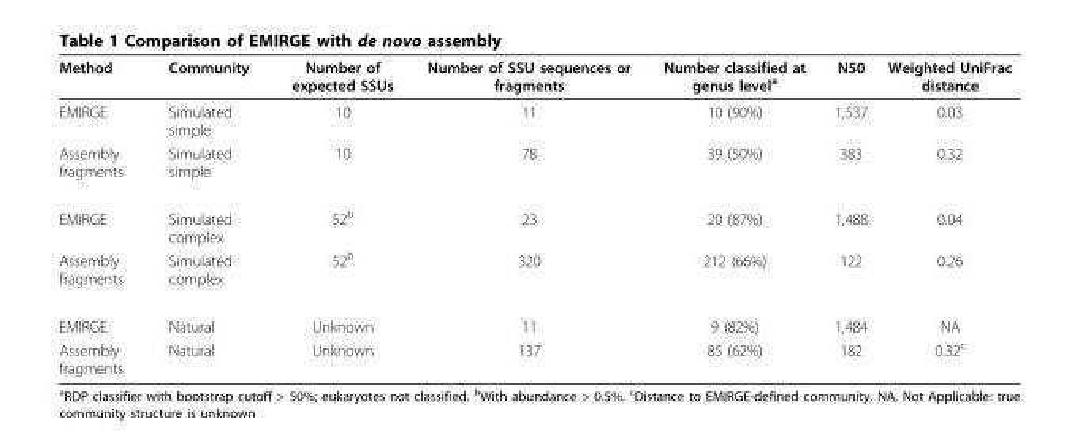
<table><thead><tr><td>Method</td><td>Community</td><td>Number of expected SSUs</td><td>Number of SSU sequences or fragments</td><td>Number classified at genus level<sup>a</sup></td><td>N50</td><td>Weighted UniFrac distance</td></tr></thead><tbody><tr><td>EMIRGE</td><td>Simulated simple</td><td>10</td><td>11</td><td>10 (90%)</td><td>1,537</td><td>0.03</td></tr><tr><td>Assembly fragments</td><td>Simulated simple</td><td>10</td><td>78</td><td>39 (50%)</td><td>383</td><td>0.32</td></tr><tr><td>EMIRGE</td><td>Simulated complex</td><td>52<sup>b</sup></td><td>23</td><td>20 (87%)</td><td>1,488</td><td>0.04</td></tr><tr><td>Assembly fragments</td><td>Simulated complex</td><td>52<sup>b</sup></td><td>320</td><td>212 (66%)</td><td>122</td><td>0.26</td></tr><tr><td>EMIRGE</td><td>Natural</td><td>Unknown</td><td>11</td><td>9 (82%)</td><td>1,484</td><td>NA</td></tr><tr><td>Assembly fragments</td><td>Natural</td><td>Unknown</td><td>137</td><td>85 (62%)</td><td>182</td><td>0.32<sup>c</sup></td></tr></tbody></table>